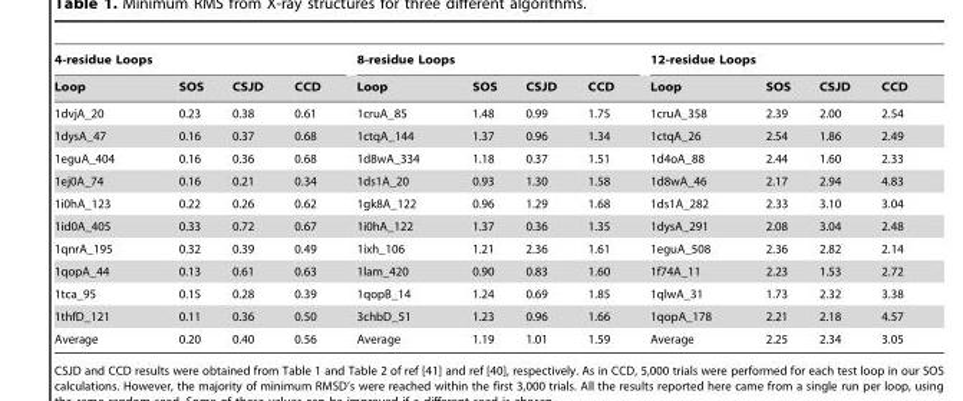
<table><thead><tr><td colspan="4">4-residue Loops</td><td colspan="4">8-residue Loops</td><td colspan="4">12-residue Loops</td></tr><tr><td>Loop</td><td>SOS</td><td>CSJD</td><td>CCD</td><td>Loop</td><td>SOS</td><td>CSJD</td><td>CCD</td><td>Loop</td><td>SOS</td><td>CSJD</td><td>CCD</td></tr></thead><tbody><tr><td>1dvjA_20</td><td>0.23</td><td>0.38</td><td>0.61</td><td>1cruA_85</td><td>1.48</td><td>0.99</td><td>1.75</td><td>1cruA_358</td><td>2.39</td><td>2.00</td><td>2.54</td></tr><tr><td>1dysA_47</td><td>0.16</td><td>0.37</td><td>0.68</td><td>1ctqA_144</td><td>1.37</td><td>0.96</td><td>1.34</td><td>1ctqA_26</td><td>2.54</td><td>1.86</td><td>2.49</td></tr><tr><td>1eguA_404</td><td>0.16</td><td>0.36</td><td>0.68</td><td>1d8wA_334</td><td>1.18</td><td>0.37</td><td>1.51</td><td>1d4oA_88</td><td>2.44</td><td>1.60</td><td>2.33</td></tr><tr><td>1ej0A_74</td><td>0.16</td><td>0.21</td><td>0.34</td><td>1ds1A_20</td><td>0.93</td><td>1.30</td><td>1.58</td><td>1d8wA_46</td><td>2.17</td><td>2.94</td><td>4.83</td></tr><tr><td>1i0hA_123</td><td>0.22</td><td>0.26</td><td>0.62</td><td>1gk8A_122</td><td>0.96</td><td>1.29</td><td>1.68</td><td>1ds1A_282</td><td>2.33</td><td>3.10</td><td>3.04</td></tr><tr><td>1id0A_405</td><td>0.33</td><td>0.72</td><td>0.67</td><td>1i0hA_122</td><td>1.37</td><td>0.36</td><td>1.35</td><td>1dysA_291</td><td>2.08</td><td>3.04</td><td>2.48</td></tr><tr><td>1qnrA_195</td><td>0.32</td><td>0.39</td><td>0.49</td><td>1ixh_106</td><td>1.21</td><td>2.36</td><td>1.61</td><td>1eguA_508</td><td>2.36</td><td>2.82</td><td>2.14</td></tr><tr><td>1qopA_44</td><td>0.13</td><td>0.61</td><td>0.63</td><td>1lam_420</td><td>0.90</td><td>0.83</td><td>1.60</td><td>1f74A_11</td><td>2.23</td><td>1.53</td><td>2.72</td></tr><tr><td>1tca_95</td><td>0.15</td><td>0.28</td><td>0.39</td><td>1qopB_14</td><td>1.24</td><td>0.69</td><td>1.85</td><td>1qlwA_31</td><td>1.73</td><td>2.32</td><td>3.38</td></tr><tr><td>1thfD_121</td><td>0.11</td><td>0.36</td><td>0.50</td><td>3chbD_51</td><td>1.23</td><td>0.96</td><td>1.66</td><td>1qopA_178</td><td>2.21</td><td>2.18</td><td>4.57</td></tr><tr><td>Average</td><td>0.20</td><td>0.40</td><td>0.56</td><td>Average</td><td>1.19</td><td>1.01</td><td>1.59</td><td>Average</td><td>2.25</td><td>2.34</td><td>3.05</td></tr></tbody></table>